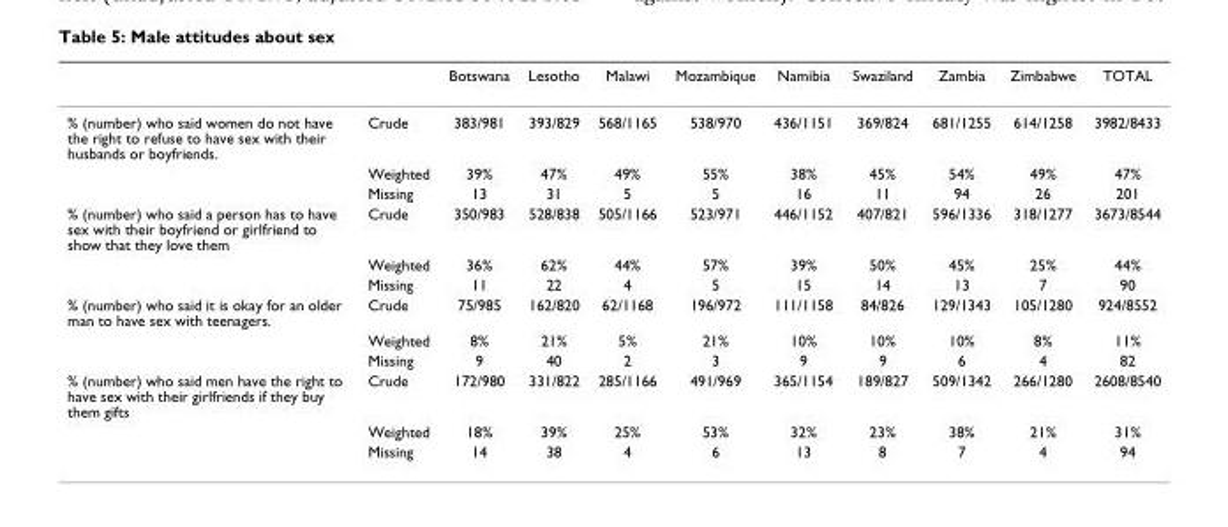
<table><thead><tr><td></td><td></td><td>Botswana</td><td>Lesotho</td><td>Malawi</td><td>Mozambique</td><td>Namibia</td><td>Swaziland</td><td>Zambia</td><td>Zimbabwe</td><td>TOTAL</td></tr></thead><tbody><tr><td rowspan="3">% (number) who said women do not have the right to refuse to have sex with their husbands or boyfriends.</td><td>Crude</td><td>383/981</td><td>393/829</td><td>568/1165</td><td>538/970</td><td>436/1151</td><td>369/824</td><td>681/1255</td><td>614/1258</td><td>3982/8433</td></tr><tr><td>Weighted</td><td>39%</td><td>47%</td><td>49%</td><td>55%</td><td>38%</td><td>45%</td><td>54%</td><td>49%</td><td>47%</td></tr><tr><td>Missing</td><td>13</td><td>31</td><td>5</td><td>5</td><td>16</td><td>11</td><td>94</td><td>26</td><td>201</td></tr><tr><td rowspan="3">% (number) who said a person has to have sex with their boyfriend or girlfriend to show that they love them</td><td>Crude</td><td>350/983</td><td>528/838</td><td>505/1166</td><td>523/971</td><td>446/1152</td><td>407/821</td><td>596/1336</td><td>318/1277</td><td>3673/8544</td></tr><tr><td>Weighted</td><td>36%</td><td>62%</td><td>44%</td><td>57%</td><td>39%</td><td>50%</td><td>45%</td><td>25%</td><td>44%</td></tr><tr><td>Missing</td><td>11</td><td>22</td><td>4</td><td>5</td><td>15</td><td>14</td><td>13</td><td>7</td><td>90</td></tr><tr><td rowspan="3">% (number) who said it is okay for an older man to have sex with teenagers.</td><td>Crude</td><td>75/985</td><td>162/820</td><td>62/1168</td><td>196/972</td><td>111/1158</td><td>84/826</td><td>129/1343</td><td>105/1280</td><td>924/8552</td></tr><tr><td>Weighted</td><td>8%</td><td>21%</td><td>5%</td><td>21%</td><td>10%</td><td>10%</td><td>10%</td><td>8%</td><td>11%</td></tr><tr><td>Missing</td><td>9</td><td>40</td><td>2</td><td>3</td><td>9</td><td>9</td><td>6</td><td>4</td><td>82</td></tr><tr><td rowspan="3">% (number) who said men have the right to have sex with their girlfriends if they buy them gifts</td><td>Crude</td><td>172/980</td><td>331/822</td><td>285/1166</td><td>491/969</td><td>365/1154</td><td>189/827</td><td>509/1342</td><td>266/1280</td><td>2608/8540</td></tr><tr><td>Weighted</td><td>18%</td><td>39%</td><td>25%</td><td>53%</td><td>32%</td><td>23%</td><td>38%</td><td>21%</td><td>31%</td></tr><tr><td>Missing</td><td>14</td><td>38</td><td>4</td><td>6</td><td>13</td><td>8</td><td>7</td><td>4</td><td>94</td></tr></tbody></table>